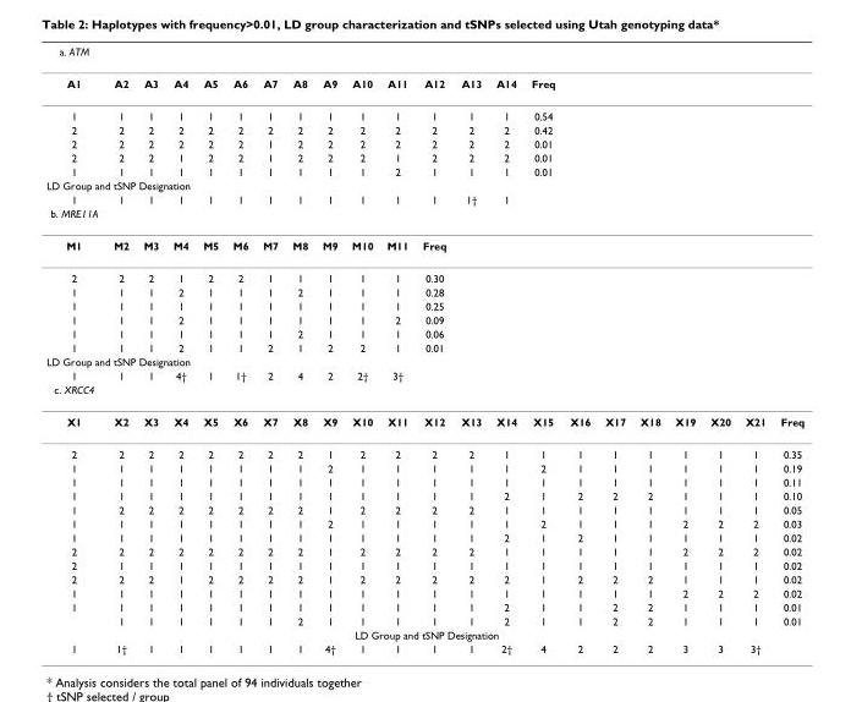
<table><thead><tr><td>a. ATM</td><td></td><td></td><td></td><td></td><td></td><td></td><td></td><td></td><td></td><td></td><td></td><td></td><td></td><td></td><td></td><td></td><td></td><td></td><td></td><td></td><td></td></tr></thead><tbody><tr><td>A1</td><td>A2</td><td>A3</td><td>A4</td><td>A5</td><td>A6</td><td>A7</td><td>A8</td><td>A9</td><td>A10</td><td>A11</td><td>A12</td><td>A13</td><td>A14</td><td>Freq</td><td></td><td></td><td></td><td></td><td></td><td></td><td></td></tr><tr><td>1</td><td>1</td><td>1</td><td>1</td><td>1</td><td>1</td><td>1</td><td>1</td><td>1</td><td>1</td><td>1</td><td>1</td><td>1</td><td>1</td><td>0.54</td><td></td><td></td><td></td><td></td><td></td><td></td><td></td></tr><tr><td>2</td><td>2</td><td>2</td><td>2</td><td>2</td><td>2</td><td>2</td><td>2</td><td>2</td><td>2</td><td>2</td><td>2</td><td>2</td><td>2</td><td>0.42</td><td></td><td></td><td></td><td></td><td></td><td></td><td></td></tr><tr><td>2</td><td>2</td><td>2</td><td>2</td><td>2</td><td>2</td><td>1</td><td>2</td><td>2</td><td>2</td><td>2</td><td>2</td><td>2</td><td>2</td><td>0.01</td><td></td><td></td><td></td><td></td><td></td><td></td><td></td></tr><tr><td>2</td><td>2</td><td>2</td><td>1</td><td>2</td><td>2</td><td>1</td><td>2</td><td>2</td><td>2</td><td>1</td><td>2</td><td>2</td><td>2</td><td>0.01</td><td></td><td></td><td></td><td></td><td></td><td></td><td></td></tr><tr><td>1</td><td>1</td><td>1</td><td>1</td><td>1</td><td>1</td><td>1</td><td>1</td><td>1</td><td>1</td><td>2</td><td>1</td><td>1</td><td>1</td><td>0.01</td><td></td><td></td><td></td><td></td><td></td><td></td><td></td></tr><tr><td colspan="22">LD Group and tSNP Designation</td></tr><tr><td>1</td><td>1</td><td>1</td><td>1</td><td>1</td><td>1</td><td>1</td><td>1</td><td>1</td><td>1</td><td>1</td><td>1</td><td>1†</td><td>1</td><td></td><td></td><td></td><td></td><td></td><td></td><td></td><td></td></tr><tr><td colspan="22">b. MRE11A</td></tr><tr><td>M1</td><td>M2</td><td>M3</td><td>M4</td><td>M5</td><td>M6</td><td>M7</td><td>M8</td><td>M9</td><td>M10</td><td>M11</td><td>Freq</td><td></td><td></td><td></td><td></td><td></td><td></td><td></td><td></td><td></td><td></td></tr><tr><td>2</td><td>2</td><td>2</td><td>1</td><td>2</td><td>2</td><td>1</td><td>1</td><td>1</td><td>1</td><td>1</td><td>0.30</td><td></td><td></td><td></td><td></td><td></td><td></td><td></td><td></td><td></td><td></td></tr><tr><td>1</td><td>1</td><td>1</td><td>2</td><td>1</td><td>1</td><td>1</td><td>2</td><td>1</td><td>1</td><td>1</td><td>0.28</td><td></td><td></td><td></td><td></td><td></td><td></td><td></td><td></td><td></td><td></td></tr><tr><td>1</td><td>1</td><td>1</td><td>1</td><td>1</td><td>1</td><td>1</td><td>1</td><td>1</td><td>1</td><td>1</td><td>0.25</td><td></td><td></td><td></td><td></td><td></td><td></td><td></td><td></td><td></td><td></td></tr><tr><td>1</td><td>1</td><td>1</td><td>2</td><td>1</td><td>1</td><td>1</td><td>1</td><td>1</td><td>1</td><td>2</td><td>0.09</td><td></td><td></td><td></td><td></td><td></td><td></td><td></td><td></td><td></td><td></td></tr><tr><td>1</td><td>1</td><td>1</td><td>1</td><td>1</td><td>1</td><td>1</td><td>2</td><td>1</td><td>1</td><td>1</td><td>0.06</td><td></td><td></td><td></td><td></td><td></td><td></td><td></td><td></td><td></td><td></td></tr><tr><td>1</td><td>1</td><td>1</td><td>2</td><td>1</td><td>1</td><td>2</td><td>1</td><td>2</td><td>2</td><td>1</td><td>0.01</td><td></td><td></td><td></td><td></td><td></td><td></td><td></td><td></td><td></td><td></td></tr><tr><td colspan="22">LD Group and tSNP Designation</td></tr><tr><td>1</td><td>1</td><td>1</td><td>4†</td><td>1</td><td>1†</td><td>2</td><td>4</td><td>2</td><td>2†</td><td>3†</td><td></td><td></td><td></td><td></td><td></td><td></td><td></td><td></td><td></td><td></td><td></td></tr><tr><td colspan="22">c. XRCC4</td></tr><tr><td>X1</td><td>X2</td><td>X3</td><td>X4</td><td>X5</td><td>X6</td><td>X7</td><td>X8</td><td>X9</td><td>X10</td><td>X11</td><td>X12</td><td>X13</td><td>X14</td><td>X15</td><td>X16</td><td>X17</td><td>X18</td><td>X19</td><td>X20</td><td>X21</td><td>Freq</td></tr><tr><td>2</td><td>2</td><td>2</td><td>2</td><td>2</td><td>2</td><td>2</td><td>2</td><td>1</td><td>2</td><td>2</td><td>2</td><td>2</td><td>1</td><td>1</td><td>1</td><td>1</td><td>1</td><td>1</td><td>1</td><td>1</td><td>0.35</td></tr><tr><td>1</td><td>1</td><td>1</td><td>1</td><td>1</td><td>1</td><td>1</td><td>1</td><td>2</td><td>1</td><td>1</td><td>1</td><td>1</td><td>1</td><td>2</td><td>1</td><td>1</td><td>1</td><td>1</td><td>1</td><td>1</td><td>0.19</td></tr><tr><td>1</td><td>1</td><td>1</td><td>1</td><td>1</td><td>1</td><td>1</td><td>1</td><td>1</td><td>1</td><td>1</td><td>1</td><td>1</td><td>1</td><td>1</td><td>1</td><td>1</td><td>1</td><td>1</td><td>1</td><td>1</td><td>0.11</td></tr><tr><td>1</td><td>1</td><td>1</td><td>1</td><td>1</td><td>1</td><td>1</td><td>1</td><td>1</td><td>1</td><td>1</td><td>1</td><td>1</td><td>2</td><td>1</td><td>2</td><td>2</td><td>2</td><td>1</td><td>1</td><td>1</td><td>0.10</td></tr><tr><td>1</td><td>2</td><td>2</td><td>2</td><td>2</td><td>2</td><td>2</td><td>2</td><td>1</td><td>2</td><td>2</td><td>2</td><td>2</td><td>1</td><td>1</td><td>1</td><td>1</td><td>1</td><td>1</td><td>1</td><td>1</td><td>0.05</td></tr><tr><td>1</td><td>1</td><td>1</td><td>1</td><td>1</td><td>1</td><td>1</td><td>1</td><td>2</td><td>1</td><td>1</td><td>1</td><td>1</td><td>1</td><td>2</td><td>1</td><td>1</td><td>1</td><td>2</td><td>2</td><td>2</td><td>0.03</td></tr><tr><td>1</td><td>1</td><td>1</td><td>1</td><td>1</td><td>1</td><td>1</td><td>1</td><td>1</td><td>1</td><td>1</td><td>1</td><td>1</td><td>2</td><td>1</td><td>2</td><td>1</td><td>1</td><td>1</td><td>1</td><td>1</td><td>0.02</td></tr><tr><td>2</td><td>2</td><td>2</td><td>2</td><td>2</td><td>2</td><td>2</td><td>2</td><td>1</td><td>2</td><td>2</td><td>2</td><td>2</td><td>1</td><td>1</td><td>1</td><td>1</td><td>1</td><td>2</td><td>2</td><td>2</td><td>0.02</td></tr><tr><td>2</td><td>1</td><td>1</td><td>1</td><td>1</td><td>1</td><td>1</td><td>1</td><td>1</td><td>1</td><td>1</td><td>1</td><td>1</td><td>1</td><td>1</td><td>1</td><td>1</td><td>1</td><td>1</td><td>1</td><td>1</td><td>0.02</td></tr><tr><td>2</td><td>2</td><td>2</td><td>1</td><td>2</td><td>2</td><td>2</td><td>2</td><td>1</td><td>2</td><td>2</td><td>2</td><td>2</td><td>2</td><td>1</td><td>2</td><td>2</td><td>2</td><td>1</td><td>1</td><td>1</td><td>0.02</td></tr><tr><td>1</td><td>1</td><td>1</td><td>1</td><td>1</td><td>1</td><td>1</td><td>1</td><td>1</td><td>1</td><td>1</td><td>1</td><td>1</td><td>1</td><td>1</td><td>1</td><td>1</td><td>1</td><td>2</td><td>2</td><td>2</td><td>0.02</td></tr><tr><td rowspan="2">1</td><td>1</td><td>1</td><td>1</td><td>1</td><td>1</td><td>1</td><td>1</td><td>1</td><td>1</td><td>1</td><td>1</td><td>1</td><td>2</td><td>1</td><td>1</td><td>2</td><td>2</td><td>1</td><td>1</td><td>1</td><td>0.01</td></tr><tr><td>1</td><td>1</td><td>1</td><td>1</td><td>1</td><td>1</td><td>2</td><td>1</td><td>1</td><td>1</td><td>1</td><td>1</td><td>2</td><td>1</td><td>1</td><td>2</td><td>2</td><td>1</td><td>1</td><td>1</td><td>0.01</td></tr><tr><td colspan="22">LD Group and tSNP Designation</td></tr><tr><td>1</td><td>1†</td><td>1</td><td>1</td><td>1</td><td>1</td><td>1</td><td>1</td><td>4†</td><td>1</td><td>1</td><td>1</td><td>1</td><td>2†</td><td>4</td><td>2</td><td>2</td><td>2</td><td>3</td><td>3</td><td>3†</td><td></td></tr></tbody></table>